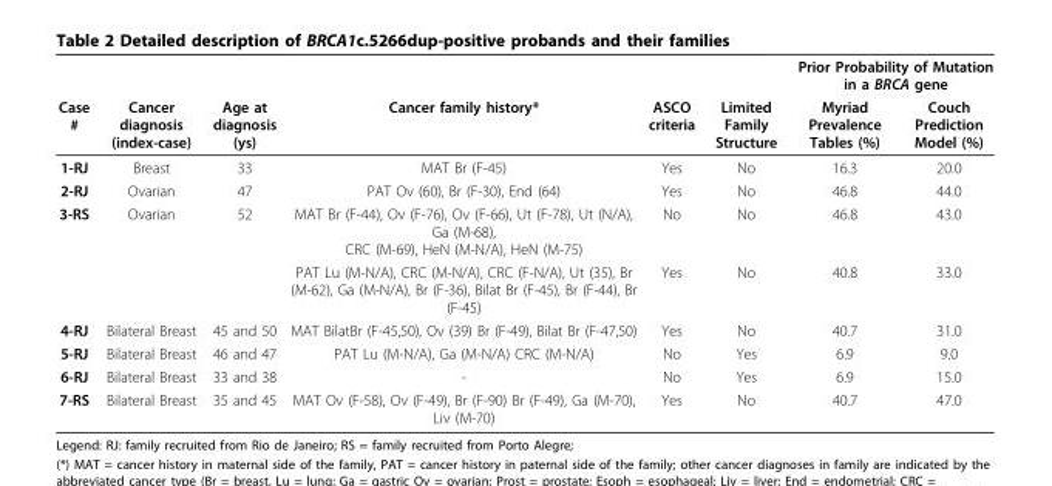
<table><thead><tr><td rowspan="2">Case #</td><td rowspan="2">Cancer diagnosis (index-case)</td><td rowspan="2">Age at diagnosis (ys)</td><td rowspan="2">Cancer family history*</td><td rowspan="2">ASCO criteria</td><td rowspan="2">Limited Family Structure</td><td colspan="2">Prior Probability of Mutation in a BRCA gene</td></tr><tr><td>Myriad Prevalence Tables (%)</td><td>Couch Prediction Model (%)</td></tr></thead><tbody><tr><td>1-RJ</td><td>Breast</td><td>33</td><td>MAT Br (F-45)</td><td>Yes</td><td>No</td><td>16.3</td><td>20.0</td></tr><tr><td>2-RJ</td><td>Ovarian</td><td>47</td><td>PAT Ov (60), Br (F-30), End (64)</td><td>Yes</td><td>No</td><td>46.8</td><td>44.0</td></tr><tr><td rowspan="2">3-RS</td><td>Ovarian</td><td>52</td><td>MAT Br (F-44), Ov (F-76), Ov (F-66), Ut (F-78), Ut (N/A), Ga (M-68), CRC (M-69), HeN (M-N/A), HeN (M-75)</td><td>No</td><td>No</td><td>46.8</td><td>43.0</td></tr><tr><td></td><td></td><td>PAT Lu (M-N/A), CRC (M-N/A), CRC (F-N/A), Ut (35), Br (M-62), Ga (M-N/A), Br (F-36), Bilat Br (F-45), Br (F-44), Br (F-45)</td><td>Yes</td><td>No</td><td>40.8</td><td>33.0</td></tr><tr><td>4-RJ</td><td>Bilateral Breast</td><td>45 and 50</td><td>MAT BilatBr (F-45,50), Ov (39) Br (F-49), Bilat Br (F-47,50)</td><td>Yes</td><td>No</td><td>40.7</td><td>31.0</td></tr><tr><td>5-RJ</td><td>Bilateral Breast</td><td>46 and 47</td><td>PAT Lu (M-N/A), Ga (M-N/A) CRC (M-N/A)</td><td>No</td><td>Yes</td><td>6.9</td><td>9.0</td></tr><tr><td>6-RJ</td><td>Bilateral Breast</td><td>33 and 38</td><td>-</td><td>No</td><td>Yes</td><td>6.9</td><td>15.0</td></tr><tr><td>7-RS</td><td>Bilateral Breast</td><td>35 and 45</td><td>MAT Ov (F-58), Ov (F-49), Br (F-90) Br (F-49), Ga (M-70), Liv (M-70)</td><td>Yes</td><td>No</td><td>40.7</td><td>47.0</td></tr></tbody></table>